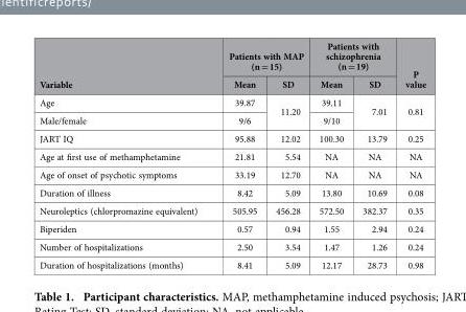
<table><thead><tr><td rowspan="2">Variable</td><td colspan="2">Patients with MAP (n = 15)</td><td colspan="2">Patients with schizophrenia (n = 19)</td><td rowspan="2">P value</td></tr><tr><td>Mean</td><td>SD</td><td>Mean</td><td>SD</td></tr></thead><tbody><tr><td>Age</td><td>39.87</td><td rowspan="2">11.20</td><td>39.11</td><td rowspan="2">7.01</td><td rowspan="2">0.81</td></tr><tr><td>Male/female</td><td>9/6</td><td>9/10</td></tr><tr><td>JART IQ</td><td>95.88</td><td>12.02</td><td>100.30</td><td>13.79</td><td>0.25</td></tr><tr><td>Age at first use of methamphetamine</td><td>21.81</td><td>5.54</td><td>NA</td><td>NA</td><td>NA</td></tr><tr><td>Age of onset of psychotic symptoms</td><td>33.19</td><td>12.70</td><td>NA</td><td>NA</td><td>NA</td></tr><tr><td>Duration of illness</td><td>8.42</td><td>5.09</td><td>13.80</td><td>10.69</td><td>0.08</td></tr><tr><td>Neuroleptics (chlorpromazine equivalent)</td><td>505.95</td><td>456.28</td><td>572.50</td><td>382.37</td><td>0.35</td></tr><tr><td>Biperiden</td><td>0.57</td><td>0.94</td><td>1.55</td><td>2.94</td><td>0.24</td></tr><tr><td>Number of hospitalizations</td><td>2.50</td><td>3.54</td><td>1.47</td><td>1.26</td><td>0.24</td></tr><tr><td>Duration of hospitalizations (months)</td><td>8.41</td><td>5.09</td><td>12.17</td><td>28.73</td><td>0.98</td></tr></tbody></table>